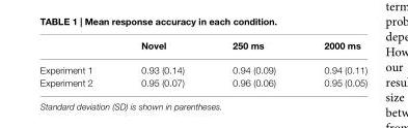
<table><thead><tr><td></td><td>Novel</td><td>250 ms</td><td>2000 ms</td></tr></thead><tbody><tr><td>Experiment 1</td><td>0.93 (0.14)</td><td>0.94 (0.09)</td><td>0.94 (0.11)</td></tr><tr><td>Experiment 2</td><td>0.95 (0.07)</td><td>0.96 (0.06)</td><td>0.95 (0.05)</td></tr></tbody></table>